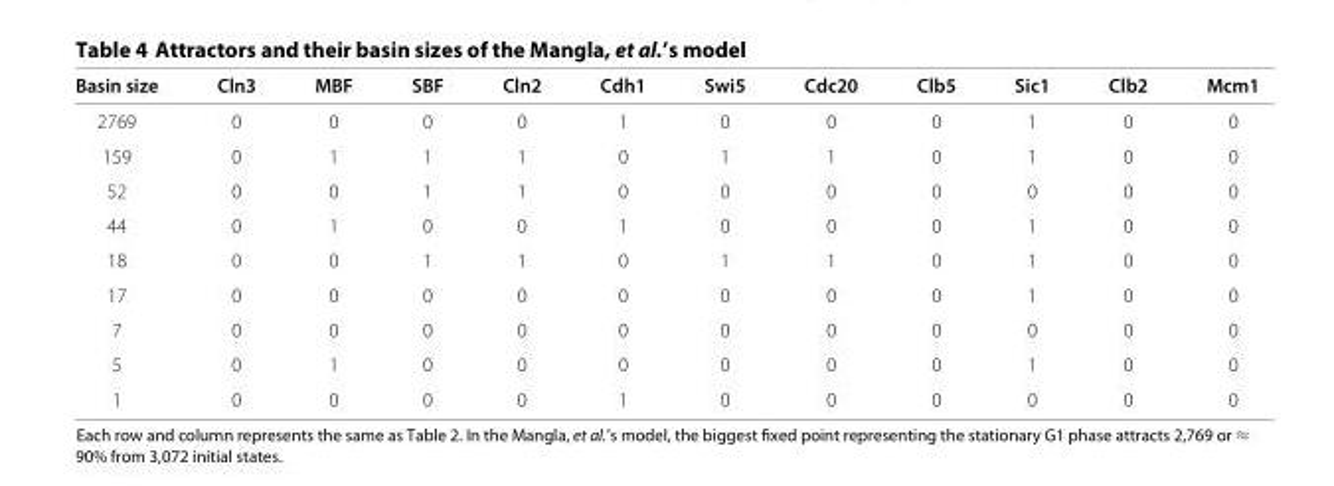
<table><thead><tr><td>Basin size</td><td>Cln3</td><td>MBF</td><td>SBF</td><td>Cln2</td><td>Cdh1</td><td>Swi5</td><td>Cdc20</td><td>Clb5</td><td>Sic1</td><td>Clb2</td><td>Mcm1</td></tr></thead><tbody><tr><td>2769</td><td>0</td><td>0</td><td>0</td><td>0</td><td>1</td><td>0</td><td>0</td><td>0</td><td>1</td><td>0</td><td>0</td></tr><tr><td>159</td><td>0</td><td>1</td><td>1</td><td>1</td><td>0</td><td>1</td><td>1</td><td>0</td><td>1</td><td>0</td><td>0</td></tr><tr><td>52</td><td>0</td><td>0</td><td>1</td><td>1</td><td>0</td><td>0</td><td>0</td><td>0</td><td>0</td><td>0</td><td>0</td></tr><tr><td>44</td><td>0</td><td>1</td><td>0</td><td>0</td><td>1</td><td>0</td><td>0</td><td>0</td><td>1</td><td>0</td><td>0</td></tr><tr><td>18</td><td>0</td><td>0</td><td>1</td><td>1</td><td>0</td><td>1</td><td>1</td><td>0</td><td>1</td><td>0</td><td>0</td></tr><tr><td>17</td><td>0</td><td>0</td><td>0</td><td>0</td><td>0</td><td>0</td><td>0</td><td>0</td><td>1</td><td>0</td><td>0</td></tr><tr><td>7</td><td>0</td><td>0</td><td>0</td><td>0</td><td>0</td><td>0</td><td>0</td><td>0</td><td>0</td><td>0</td><td>0</td></tr><tr><td>5</td><td>0</td><td>1</td><td>0</td><td>0</td><td>0</td><td>0</td><td>0</td><td>0</td><td>1</td><td>0</td><td>0</td></tr><tr><td>1</td><td>0</td><td>0</td><td>0</td><td>0</td><td>1</td><td>0</td><td>0</td><td>0</td><td>0</td><td>0</td><td>0</td></tr></tbody></table>